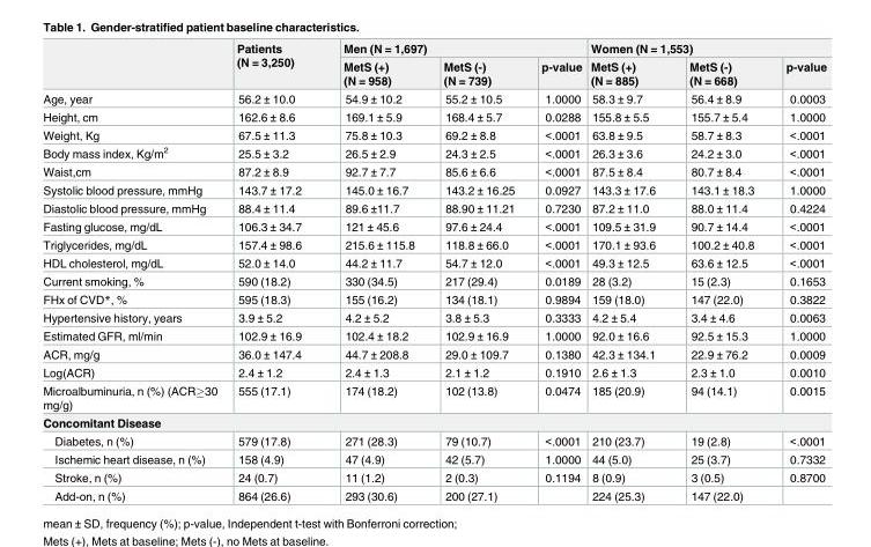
<table><thead><tr><td rowspan="2"></td><td rowspan="2">Patients (N = 3,250)</td><td colspan="3">Men (N = 1,697)</td><td colspan="3">Women (N = 1,553)</td></tr><tr><td>MetS (+) (N = 958)</td><td>MetS (-) (N = 739)</td><td>p-value</td><td>MetS (+) (N = 885)</td><td>MetS (-) (N = 668)</td><td>p-value</td></tr></thead><tbody><tr><td>Age, year</td><td>56.2 ± 10.0</td><td>54.9 ± 10.2</td><td>55.2 ± 10.5</td><td>1.0000</td><td>58.3 ± 9.7</td><td>56.4 ± 8.9</td><td>0.0003</td></tr><tr><td>Height, cm</td><td>162.6 ± 8.6</td><td>169.1 ± 5.9</td><td>168.4 ± 5.7</td><td>0.0288</td><td>155.8 ± 5.5</td><td>155.7 ± 5.4</td><td>1.0000</td></tr><tr><td>Weight, Kg</td><td>67.5 ± 11.3</td><td>75.8 ± 10.3</td><td>69.2 ± 8.8</td><td>&lt;.0001</td><td>63.8 ± 9.5</td><td>58.7 ± 8.3</td><td>&lt;.0001</td></tr><tr><td>Body mass index, Kg/m<sup>2</sup></td><td>25.5 ± 3.2</td><td>26.5 ± 2.9</td><td>24.3 ± 2.5</td><td>&lt;.0001</td><td>26.3 ± 3.6</td><td>24.2 ± 3.0</td><td>&lt;.0001</td></tr><tr><td>Waist,cm</td><td>87.2 ± 8.9</td><td>92.7 ± 7.7</td><td>85.6 ± 6.6</td><td>&lt;.0001</td><td>87.5 ± 8.4</td><td>80.7 ± 8.4</td><td>&lt;.0001</td></tr><tr><td>Systolic blood pressure, mmHg</td><td>143.7 ± 17.2</td><td>145.0 ± 16.7</td><td>143.2 ± 16.25</td><td>0.0927</td><td>143.3 ± 17.6</td><td>143.1 ± 18.3</td><td>1.0000</td></tr><tr><td>Diastolic blood pressure, mmHg</td><td>88.4 ± 11.4</td><td>89.6 ±11.7</td><td>88.90 ± 11.21</td><td>0.7230</td><td>87.2 ± 11.0</td><td>88.0 ± 11.4</td><td>0.4224</td></tr><tr><td>Fasting glucose, mg/dL</td><td>106.3 ± 34.7</td><td>121 ± 45.6</td><td>97.6 ± 24.4</td><td>&lt;.0001</td><td>109.5 ± 31.9</td><td>90.7 ± 14.4</td><td>&lt;.0001</td></tr><tr><td>Triglycerides, mg/dL</td><td>157.4 ± 98.6</td><td>215.6 ± 115.8</td><td>118.8 ± 66.0</td><td>&lt;.0001</td><td>170.1 ± 93.6</td><td>100.2 ± 40.8</td><td>&lt;.0001</td></tr><tr><td>HDL cholesterol, mg/dL</td><td>52.0 ± 14.0</td><td>44.2 ± 11.7</td><td>54.7 ± 12.0</td><td>&lt;.0001</td><td>49.3 ± 12.5</td><td>63.6 ± 12.5</td><td>&lt;.0001</td></tr><tr><td>Current smoking, %</td><td>590 (18.2)</td><td>330 (34.5)</td><td>217 (29.4)</td><td>0.0189</td><td>28 (3.2)</td><td>15 (2.3)</td><td>0.1653</td></tr><tr><td>FHx of CVD*, %</td><td>595 (18.3)</td><td>155 (16.2)</td><td>134 (18.1)</td><td>0.9894</td><td>159 (18.0)</td><td>147 (22.0)</td><td>0.3822</td></tr><tr><td>Hypertensive history, years</td><td>3.9 ± 5.2</td><td>4.2 ± 5.2</td><td>3.8 ± 5.3</td><td>0.3333</td><td>4.2 ± 5.4</td><td>3.4 ± 4.6</td><td>0.0063</td></tr><tr><td>Estimated GFR, ml/min</td><td>102.9 ± 16.9</td><td>102.4 ± 18.2</td><td>102.9 ± 16.9</td><td>1.0000</td><td>92.0 ± 16.6</td><td>92.5 ± 15.3</td><td>1.0000</td></tr><tr><td>ACR, mg/g</td><td>36.0 ± 147.4</td><td>44.7 ± 208.8</td><td>29.0 ± 109.7</td><td>0.1380</td><td>42.3 ± 134.1</td><td>22.9 ± 76.2</td><td>0.0009</td></tr><tr><td>Log(ACR)</td><td>2.4 ± 1.2</td><td>2.4 ± 1.3</td><td>2.1 ± 1.2</td><td>0.1910</td><td>2.6 ± 1.3</td><td>2.3 ± 1.0</td><td>0.0010</td></tr><tr><td>Microalbuminuria, n (%) (ACR≥30 mg/g)</td><td>555 (17.1)</td><td>174 (18.2)</td><td>102 (13.8)</td><td>0.0474</td><td>185 (20.9)</td><td>94 (14.1)</td><td>0.0015</td></tr><tr><td colspan="8">Concomitant Disease</td></tr><tr><td>Diabetes, n (%)</td><td>579 (17.8)</td><td>271 (28.3)</td><td>79 (10.7)</td><td>&lt;.0001</td><td>210 (23.7)</td><td>19 (2.8)</td><td>&lt;.0001</td></tr><tr><td>Ischemic heart disease, n (%)</td><td>158 (4.9)</td><td>47 (4.9)</td><td>42 (5.7)</td><td>1.0000</td><td>44 (5.0)</td><td>25 (3.7)</td><td>0.7332</td></tr><tr><td>Stroke, n (%)</td><td>24 (0.7)</td><td>11 (1.2)</td><td>2 (0.3)</td><td>0.1194</td><td>8 (0.9)</td><td>3 (0.5)</td><td>0.8700</td></tr><tr><td>Add-on, n (%)</td><td>864 (26.6)</td><td>293 (30.6)</td><td>200 (27.1)</td><td></td><td>224 (25.3)</td><td>147 (22.0)</td><td></td></tr></tbody></table>